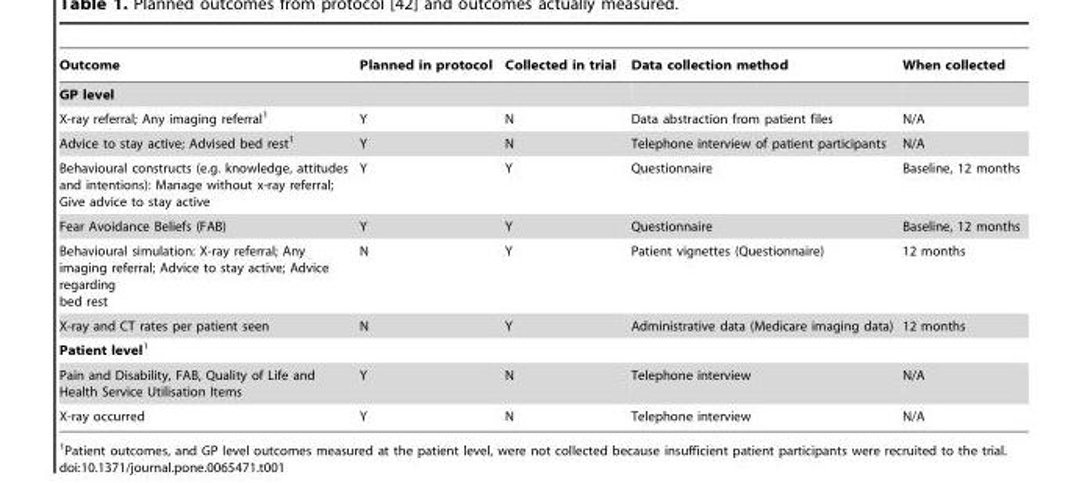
<table><thead><tr><td>Outcome</td><td>Planned in protocol</td><td>Collected in trial</td><td>Data collection method</td><td>When collected</td></tr></thead><tbody><tr><td colspan="5">GP level</td></tr><tr><td>X-ray referral; Any imaging referral<sup>1</sup></td><td>Y</td><td>N</td><td>Data abstraction from patient files</td><td>N/A</td></tr><tr><td>Advice to stay active; Advised bed rest<sup>1</sup></td><td>Y</td><td>N</td><td>Telephone interview of patient participants</td><td>N/A</td></tr><tr><td>Behavioural constructs (e.g. knowledge, attitudes and intentions): Manage without x-ray referral; Give advice to stay active</td><td>Y</td><td>Y</td><td>Questionnaire</td><td>Baseline, 12 months</td></tr><tr><td>Fear Avoidance Beliefs (FAB)</td><td>Y</td><td>Y</td><td>Questionnaire</td><td>Baseline, 12 months</td></tr><tr><td>Behavioural simulation: X-ray referral; Any imaging referral; Advice to stay active; Advice regarding bed rest</td><td>N</td><td>Y</td><td>Patient vignettes (Questionnaire)</td><td>12 months</td></tr><tr><td>X-ray and CT rates per patient seen</td><td>N</td><td>Y</td><td>Administrative data (Medicare imaging data)</td><td>12 months</td></tr><tr><td colspan="5">Patient level1</td></tr><tr><td>Pain and Disability, FAB, Quality of Life and Health Service Utilisation Items</td><td>Y</td><td>N</td><td>Telephone interview</td><td>N/A</td></tr><tr><td>X-ray occurred</td><td>Y</td><td>N</td><td>Telephone interview</td><td>N/A</td></tr></tbody></table>